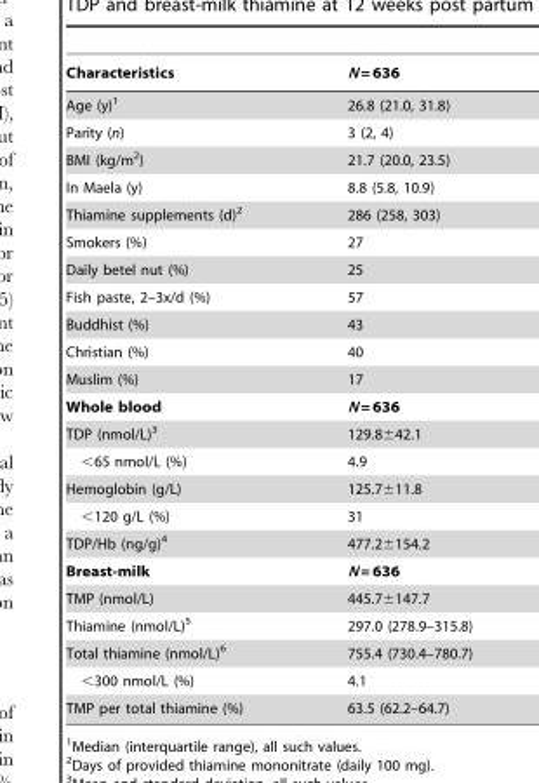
<table><thead><tr><td>Characteristics</td><td>N = 636</td></tr></thead><tbody><tr><td>Age (y)<sup>1</sup></td><td>26.8 (21.0, 31.8)</td></tr><tr><td>Parity (n)</td><td>3 (2, 4)</td></tr><tr><td>BMI (kg/m<sup>2</sup>)</td><td>21.7 (20.0, 23.5)</td></tr><tr><td>In Maela (y)</td><td>8.8 (5.8, 10.9)</td></tr><tr><td>Thiamine supplements (d)<sup>2</sup></td><td>286 (258, 303)</td></tr><tr><td>Smokers (%)</td><td>27</td></tr><tr><td>Daily betel nut (%)</td><td>25</td></tr><tr><td>Fish paste, 2–3x/d (%)</td><td>57</td></tr><tr><td>Buddhist (%)</td><td>43</td></tr><tr><td>Christian (%)</td><td>40</td></tr><tr><td>Muslim (%)</td><td>17</td></tr><tr><td>Whole blood</td><td>N = 636</td></tr><tr><td>TDP (nmol/L)<sup>3</sup></td><td>129.8±42.1</td></tr><tr><td>&lt;65 nmol/L (%)</td><td>4.9</td></tr><tr><td>Hemoglobin (g/L)</td><td>125.7±11.8</td></tr><tr><td>&lt;120 g/L (%)</td><td>31</td></tr><tr><td>TDP/Hb (ng/g)<sup>4</sup></td><td>477.2±154.2</td></tr><tr><td>Breast-milk</td><td>N = 636</td></tr><tr><td>TMP (nmol/L)</td><td>445.7±147.7</td></tr><tr><td>Thiamine (nmol/L)<sup>5</sup></td><td>297.0 (278.9–315.8)</td></tr><tr><td>Total thiamine (nmol/L)<sup>6</sup></td><td>755.4 (730.4–780.7)</td></tr><tr><td>&lt;300 nmol/L (%)</td><td>4.1</td></tr><tr><td>TMP per total thiamine (%)</td><td>63.5 (62.2–64.7)</td></tr></tbody></table>